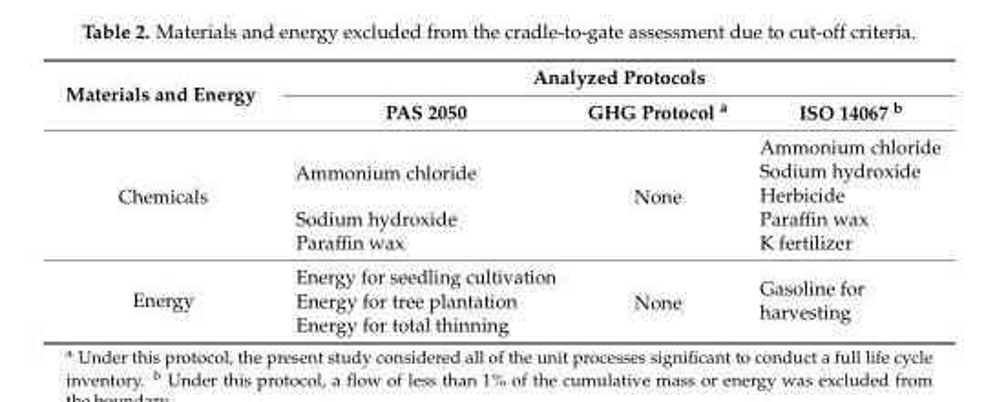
<table><thead><tr><td rowspan="2">Materials and Energy</td><td colspan="3">Analyzed Protocols</td></tr><tr><td>PAS 2050</td><td>GHG Protocol <sup>a</sup></td><td>ISO 14067 <sup>b</sup></td></tr></thead><tbody><tr><td rowspan="5">Chemicals</td><td rowspan="3">Ammonium chloride</td><td rowspan="5">None</td><td>Ammonium chloride</td></tr><tr><td>Sodium hydroxide</td></tr><tr><td>Herbicide</td></tr><tr><td>Sodium hydroxide</td><td>Paraffin wax</td></tr><tr><td>Paraffin wax</td><td>K fertilizer</td></tr><tr><td rowspan="3">Energy</td><td>Energy for seedling cultivation</td><td rowspan="3">None</td><td rowspan="3">Gasoline for harvesting</td></tr><tr><td>Energy for tree plantation</td></tr><tr><td>Energy for total thinning</td></tr></tbody></table>